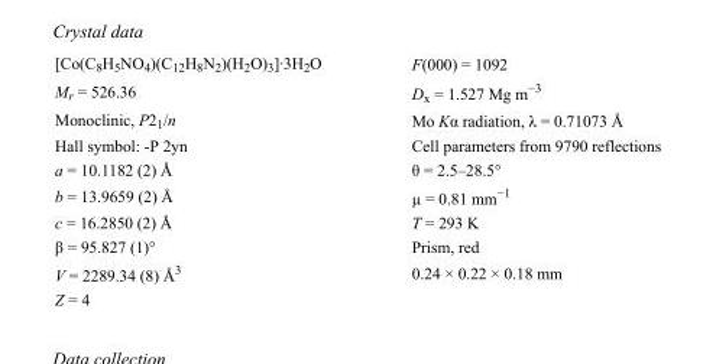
<table><tbody><tr><td>[Co(C<sub>8</sub>H<sub>5</sub>NO<sub>4</sub>)(C<sub>12</sub>H<sub>8</sub>N<sub>2</sub>)(H<sub>2</sub>O)<sub>3</sub>]·3H<sub>2</sub>O</td><td>F(000) = 1092</td></tr><tr><td>M<sub>r</sub> = 526.36</td><td>D<sub>x</sub> = 1.527 Mg m<sup>−3</sup></td></tr><tr><td>Monoclinic, P2<sub>1</sub>/n</td><td>Mo Kα radiation, λ = 0.71073 Å</td></tr><tr><td>Hall symbol: -P 2yn</td><td>Cell parameters from 9790 reflections</td></tr><tr><td>a = 10.1182 (2) Å</td><td>θ = 2.5–28.5°</td></tr><tr><td>b = 13.9659 (2) Å</td><td>µ = 0.81 mm<sup>−1</sup></td></tr><tr><td>c = 16.2850 (2) Å</td><td>T = 293 K</td></tr><tr><td>β = 95.827 (1)°</td><td>Prism, red</td></tr><tr><td>V = 2289.34 (8) Å<sup>3</sup></td><td>0.24 × 0.22 × 0.18 mm</td></tr><tr><td>Z = 4</td><td></td></tr></tbody></table>